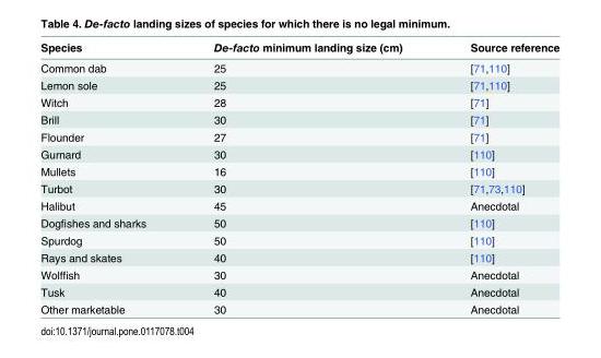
<table><thead><tr><td>Species</td><td>De-facto minimum landing size (cm)</td><td>Source reference</td></tr></thead><tbody><tr><td>Common dab</td><td>25</td><td>[71,110]</td></tr><tr><td>Lemon sole</td><td>25</td><td>[71,110]</td></tr><tr><td>Witch</td><td>28</td><td>[71]</td></tr><tr><td>Brill</td><td>30</td><td>[71]</td></tr><tr><td>Flounder</td><td>27</td><td>[71]</td></tr><tr><td>Gurnard</td><td>30</td><td>[110]</td></tr><tr><td>Mullets</td><td>16</td><td>[110]</td></tr><tr><td>Turbot</td><td>30</td><td>[71,73,110]</td></tr><tr><td>Halibut</td><td>45</td><td>Anecdotal</td></tr><tr><td>Dogfishes and sharks</td><td>50</td><td>[110]</td></tr><tr><td>Spurdog</td><td>50</td><td>[110]</td></tr><tr><td>Rays and skates</td><td>40</td><td>[110]</td></tr><tr><td>Wolffish</td><td>30</td><td>Anecdotal</td></tr><tr><td>Tusk</td><td>40</td><td>Anecdotal</td></tr><tr><td>Other marketable</td><td>30</td><td>Anecdotal</td></tr></tbody></table>